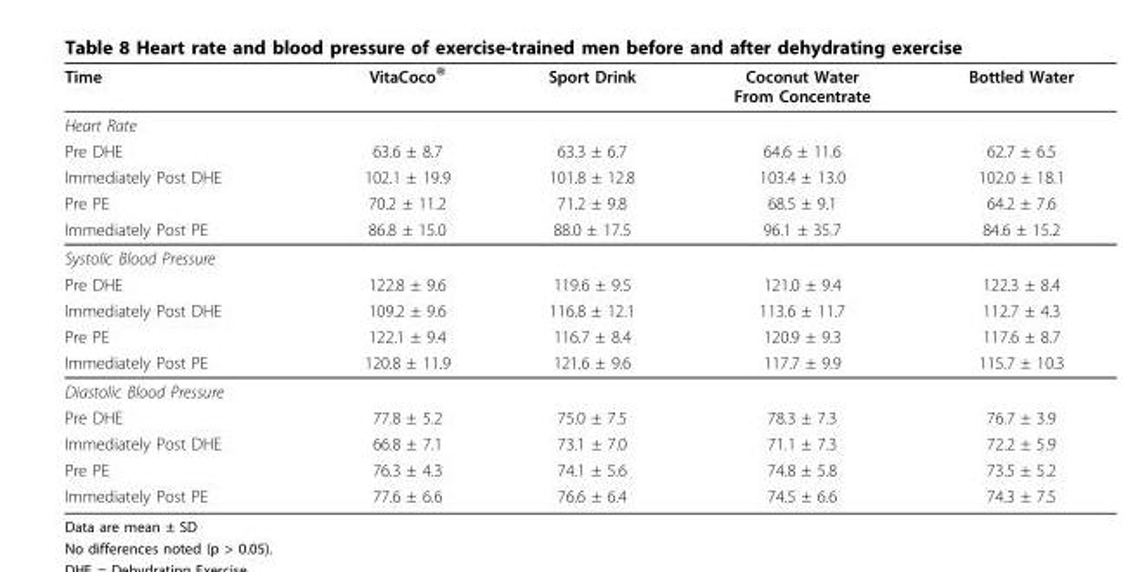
<table><thead><tr><td>Time</td><td>VitaCoco<sup>®</sup></td><td>Sport Drink</td><td>Coconut Water From Concentrate</td><td>Bottled Water</td></tr></thead><tbody><tr><td colspan="5">Heart Rate</td></tr><tr><td>Pre DHE</td><td>63.6 ± 8.7</td><td>63.3 ± 6.7</td><td>64.6 ± 11.6</td><td>62.7 ± 6.5</td></tr><tr><td>Immediately Post DHE</td><td>102.1 ± 19.9</td><td>101.8 ± 12.8</td><td>103.4 ± 13.0</td><td>102.0 ± 18.1</td></tr><tr><td>Pre PE</td><td>70.2 ± 11.2</td><td>71.2 ± 9.8</td><td>68.5 ± 9.1</td><td>64.2 ± 7.6</td></tr><tr><td>Immediately Post PE</td><td>86.8 ± 15.0</td><td>88.0 ± 17.5</td><td>96.1 ± 35.7</td><td>84.6 ± 15.2</td></tr><tr><td colspan="5">Systolic Blood Pressure</td></tr><tr><td>Pre DHE</td><td>122.8 ± 9.6</td><td>119.6 ± 9.5</td><td>121.0 ± 9.4</td><td>122.3 ± 8.4</td></tr><tr><td>Immediately Post DHE</td><td>109.2 ± 9.6</td><td>116.8 ± 12.1</td><td>113.6 ± 11.7</td><td>112.7 ± 4.3</td></tr><tr><td>Pre PE</td><td>122.1 ± 9.4</td><td>116.7 ± 8.4</td><td>120.9 ± 9.3</td><td>117.6 ± 8.7</td></tr><tr><td>Immediately Post PE</td><td>120.8 ± 11.9</td><td>121.6 ± 9.6</td><td>117.7 ± 9.9</td><td>115.7 ± 10.3</td></tr><tr><td colspan="5">Diastolic Blood Pressure</td></tr><tr><td>Pre DHE</td><td>77.8 ± 5.2</td><td>75.0 ± 7.5</td><td>78.3 ± 7.3</td><td>76.7 ± 3.9</td></tr><tr><td>Immediately Post DHE</td><td>66.8 ± 7.1</td><td>73.1 ± 7.0</td><td>71.1 ± 7.3</td><td>72.2 ± 5.9</td></tr><tr><td>Pre PE</td><td>76.3 ± 4.3</td><td>74.1 ± 5.6</td><td>74.8 ± 5.8</td><td>73.5 ± 5.2</td></tr><tr><td>Immediately Post PE</td><td>77.6 ± 6.6</td><td>76.6 ± 6.4</td><td>74.5 ± 6.6</td><td>74.3 ± 7.5</td></tr></tbody></table>